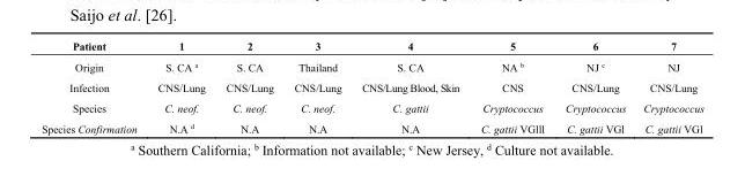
<table><thead><tr><td>Patient</td><td>1</td><td>2</td><td>3</td><td>4</td><td>5</td><td>6</td><td>7</td></tr></thead><tbody><tr><td>Origin</td><td>S. CA <sup>a</sup></td><td>S. CA</td><td>Thailand</td><td>S. CA</td><td>NA <sup>b</sup></td><td>NJ <sup>c</sup></td><td>NJ</td></tr><tr><td>Infection</td><td>CNS/Lung</td><td>CNS/Lung</td><td>CNS/Lung</td><td>CNS/Lung Blood, Skin</td><td>CNS</td><td>CNS/Lung</td><td>CNS/Lung</td></tr><tr><td>Species</td><td>C. neof.</td><td>C. neof.</td><td>C. neof.</td><td>C. gattii</td><td>Cryptococcus</td><td>Cryptococcus</td><td>Cryptococcus</td></tr><tr><td>Species Confirmation</td><td>N.A <sup>d</sup></td><td>N.A</td><td>N.A</td><td>N.A</td><td>C. gattii VGlll</td><td>C. gattii VGl</td><td>C. gattii VGl</td></tr></tbody></table>